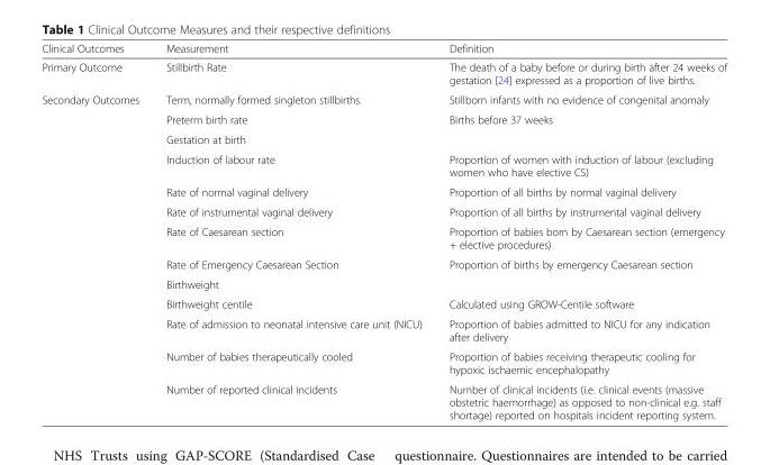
<table><thead><tr><td>Clinical Outcomes</td><td>Measurement</td><td>Definition</td></tr></thead><tbody><tr><td>Primary Outcome</td><td>Stillbirth Rate</td><td>The death of a baby before or during birth after 24 weeks of gestation [24] expressed as a proportion of live births.</td></tr><tr><td rowspan="13">Secondary Outcomes</td><td>Term, normally formed singleton stillbirths.</td><td>Stillborn infants with no evidence of congenital anomaly</td></tr><tr><td>Preterm birth rate</td><td>Births before 37 weeks</td></tr><tr><td>Gestation at birth</td><td></td></tr><tr><td>Induction of labour rate</td><td>Proportion of women with induction of labour (excluding women who have elective CS)</td></tr><tr><td>Rate of normal vaginal delivery</td><td>Proportion of all births by normal vaginal delivery</td></tr><tr><td>Rate of instrumental vaginal delivery</td><td>Proportion of all births by instrumental vaginal delivery</td></tr><tr><td>Rate of Caesarean section</td><td>Proportion of babies born by Caesarean section (emergency + elective procedures)</td></tr><tr><td>Rate of Emergency Caesarean Section</td><td>Proportion of births by emergency Caesarean section</td></tr><tr><td>Birthweight</td><td></td></tr><tr><td>Birthweight centile</td><td>Calculated using GROW-Centile software</td></tr><tr><td>Rate of admission to neonatal intensive care unit (NICU)</td><td>Proportion of babies admitted to NICU for any indication after delivery</td></tr><tr><td>Number of babies therapeutically cooled</td><td>Proportion of babies receiving therapeutic cooling for hypoxic ischaemic encephalopathy</td></tr><tr><td>Number of reported clinical incidents</td><td>Number of clinical incidents (i.e. clinical events (massive obstetric haemorrhage) as opposed to non-clinical e.g. staff shortage) reported on hospitals incident reporting system.</td></tr></tbody></table>